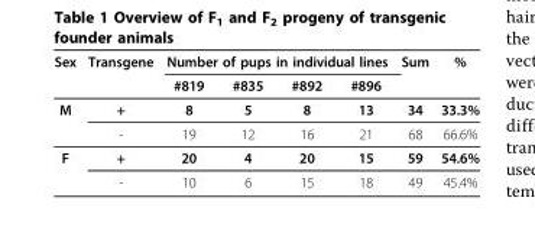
<table><thead><tr><td rowspan="2">Sex</td><td rowspan="2">Transgene</td><td colspan="4">Number of pups in individual lines</td><td rowspan="2">Sum</td><td rowspan="2">%</td></tr><tr><td>#819</td><td>#835</td><td>#892</td><td>#896</td></tr></thead><tbody><tr><td rowspan="2">M</td><td>+</td><td>8</td><td>5</td><td>8</td><td>13</td><td>34</td><td>33.3%</td></tr><tr><td>-</td><td>19</td><td>12</td><td>16</td><td>21</td><td>68</td><td>66.6%</td></tr><tr><td rowspan="2">F</td><td>+</td><td>20</td><td>4</td><td>20</td><td>15</td><td>59</td><td>54.6%</td></tr><tr><td>-</td><td>10</td><td>6</td><td>15</td><td>18</td><td>49</td><td>45.4%</td></tr></tbody></table>